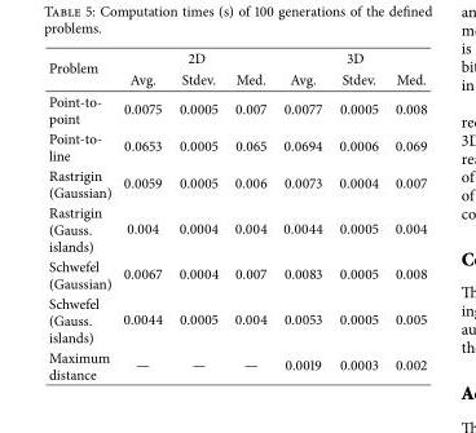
<table><thead><tr><td rowspan="2">Problem</td><td colspan="3">2D</td><td colspan="3">3D</td></tr><tr><td>Avg.</td><td>Stdev.</td><td>Med.</td><td>Avg.</td><td>Stdev.</td><td>Med.</td></tr></thead><tbody><tr><td>Point-to- point</td><td>0.0075</td><td>0.0005</td><td>0.007</td><td>0.0077</td><td>0.0005</td><td>0.008</td></tr><tr><td>Point-to- line</td><td>0.0653</td><td>0.0005</td><td>0.065</td><td>0.0694</td><td>0.0006</td><td>0.069</td></tr><tr><td>Rastrigin (Gaussian)</td><td>0.0059</td><td>0.0005</td><td>0.006</td><td>0.0073</td><td>0.0004</td><td>0.007</td></tr><tr><td>Rastrigin (Gauss. islands)</td><td>0.004</td><td>0.0004</td><td>0.004</td><td>0.0044</td><td>0.0005</td><td>0.004</td></tr><tr><td>Schwefel (Gaussian)</td><td>0.0067</td><td>0.0004</td><td>0.007</td><td>0.0083</td><td>0.0005</td><td>0.008</td></tr><tr><td>Schwefel (Gauss. islands)</td><td>0.0044</td><td>0.0005</td><td>0.004</td><td>0.0053</td><td>0.0005</td><td>0.005</td></tr><tr><td>Maximum distance</td><td>—</td><td>—</td><td>—</td><td>0.0019</td><td>0.0003</td><td>0.002</td></tr></tbody></table>